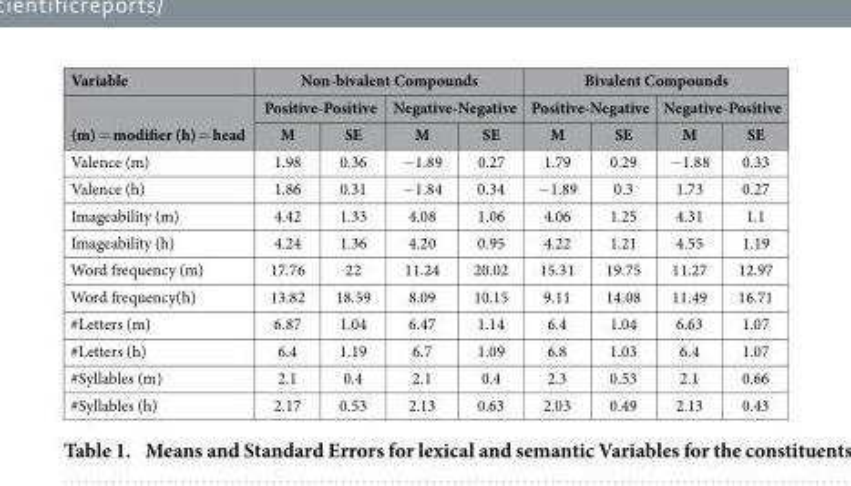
<table><thead><tr><td rowspan="3">Variable (m) = modifier (h) = head</td><td colspan="4">Non-bivalent Compounds</td><td colspan="4">Bivalent Compounds</td></tr><tr><td colspan="2">Positive-Positive</td><td colspan="2">Negative-Negative</td><td colspan="2">Positive-Negative</td><td colspan="2">Negative-Positive</td></tr><tr><td>M</td><td>SE</td><td>M</td><td>SE</td><td>M</td><td>SE</td><td>M</td><td>SE</td></tr></thead><tbody><tr><td>Valence (m)</td><td>1.98</td><td>0.36</td><td>− 1.89</td><td>0.27</td><td>1.79</td><td>0.29</td><td>− 1.88</td><td>0.33</td></tr><tr><td>Valence (h)</td><td>1.86</td><td>0.31</td><td>− 1.84</td><td>0.34</td><td>− 1.89</td><td>0.3</td><td>1.73</td><td>0.27</td></tr><tr><td>Imageability (m)</td><td>4.42</td><td>1.33</td><td>4.08</td><td>1.06</td><td>4.06</td><td>1.25</td><td>4.31</td><td>1.1</td></tr><tr><td>Imageability (h)</td><td>4.24</td><td>1.36</td><td>4.20</td><td>0.95</td><td>4.22</td><td>1.21</td><td>4.55</td><td>1.19</td></tr><tr><td>Word frequency (m)</td><td>17.76</td><td>22</td><td>11.24</td><td>20.02</td><td>15.31</td><td>19.75</td><td>11.27</td><td>12.97</td></tr><tr><td>Word frequency(h)</td><td>13.82</td><td>18.59</td><td>8.09</td><td>10.15</td><td>9.11</td><td>14.08</td><td>11.49</td><td>16.71</td></tr><tr><td>#Letters (m)</td><td>6.87</td><td>1.04</td><td>6.47</td><td>1.14</td><td>6.4</td><td>1.04</td><td>6.63</td><td>1.07</td></tr><tr><td>#Letters (h)</td><td>6.4</td><td>1.19</td><td>6.7</td><td>1.09</td><td>6.8</td><td>1.03</td><td>6.4</td><td>1.07</td></tr><tr><td>#Syllables (m)</td><td>2.1</td><td>0.4</td><td>2.1</td><td>0.4</td><td>2.3</td><td>0.53</td><td>2.1</td><td>0.66</td></tr><tr><td>#Syllables (h)</td><td>2.17</td><td>0.53</td><td>2.13</td><td>0.63</td><td>2.03</td><td>0.49</td><td>2.13</td><td>0.43</td></tr></tbody></table>